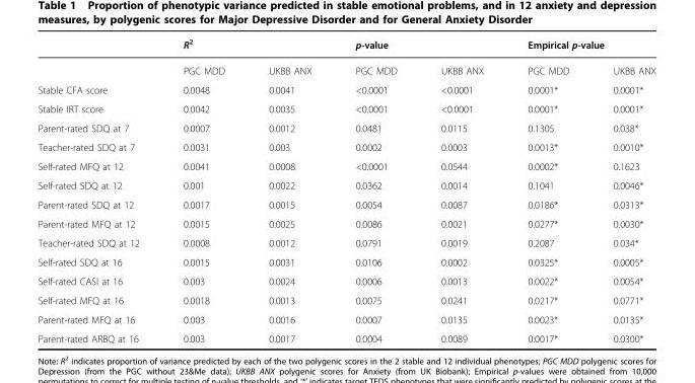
<table><thead><tr><td rowspan="2"></td><td colspan="2">R<sup>2</sup></td><td colspan="2">p-value</td><td colspan="2">Empirical p-value</td></tr><tr><td>PGC MDD</td><td>UKBB ANX</td><td>PGC MDD</td><td>UKBB ANX</td><td>PGC MDD</td><td>UKBB ANX</td></tr></thead><tbody><tr><td>Stable CFA score</td><td>0.0048</td><td>0.0041</td><td>&lt;0.0001</td><td>&lt;0.0001</td><td>0.0001*</td><td>0.0001*</td></tr><tr><td>Stable IRT score</td><td>0.0042</td><td>0.0035</td><td>&lt;0.0001</td><td>&lt;0.0001</td><td>0.0001*</td><td>0.0001*</td></tr><tr><td>Parent-rated SDQ at 7</td><td>0.0007</td><td>0.0012</td><td>0.0481</td><td>0.0115</td><td>0.1305</td><td>0.038*</td></tr><tr><td>Teacher-rated SDQ at 7</td><td>0.0031</td><td>0.003</td><td>0.0002</td><td>0.0003</td><td>0.0013*</td><td>0.0010*</td></tr><tr><td>Self-rated MFQ at 12</td><td>0.0041</td><td>0.0008</td><td>&lt;0.0001</td><td>0.0544</td><td>0.0002*</td><td>0.1623</td></tr><tr><td>Self-rated SDQ at 12</td><td>0.001</td><td>0.0022</td><td>0.0362</td><td>0.0014</td><td>0.1041</td><td>0.0046*</td></tr><tr><td>Parent-rated SDQ at 12</td><td>0.0017</td><td>0.0015</td><td>0.0054</td><td>0.0087</td><td>0.0186*</td><td>0.0313*</td></tr><tr><td>Parent-rated MFQ at 12</td><td>0.0015</td><td>0.0025</td><td>0.0086</td><td>0.0021</td><td>0.0277*</td><td>0.0030*</td></tr><tr><td>Teacher-rated SDQ at 12</td><td>0.0008</td><td>0.0012</td><td>0.0791</td><td>0.0019</td><td>0.2087</td><td>0.034*</td></tr><tr><td>Self-rated SDQ at 16</td><td>0.0015</td><td>0.0031</td><td>0.0106</td><td>0.0002</td><td>0.0325*</td><td>0.0005*</td></tr><tr><td>Self-rated CASI at 16</td><td>0.003</td><td>0.0024</td><td>0.0006</td><td>0.0013</td><td>0.0022*</td><td>0.0054*</td></tr><tr><td>Self-rated MFQ at 16</td><td>0.0018</td><td>0.0013</td><td>0.0075</td><td>0.0241</td><td>0.0217*</td><td>0.0771*</td></tr><tr><td>Parent-rated MFQ at 16</td><td>0.003</td><td>0.0016</td><td>0.0007</td><td>0.0135</td><td>0.0023*</td><td>0.0135*</td></tr><tr><td>Parent-rated ARBQ at 16</td><td>0.003</td><td>0.0017</td><td>0.0004</td><td>0.0089</td><td>0.0017*</td><td>0.0300*</td></tr></tbody></table>